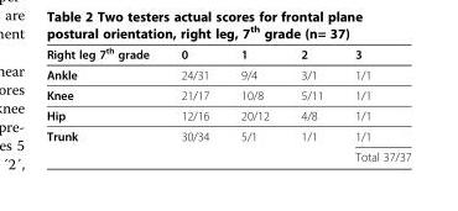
<table><thead><tr><td>Right leg 7<sup>th</sup> grade</td><td>0</td><td>1</td><td>2</td><td>3</td></tr></thead><tbody><tr><td>Ankle</td><td>24/31</td><td>9/4</td><td>3/1</td><td>1/1</td></tr><tr><td>Knee</td><td>21/17</td><td>10/8</td><td>5/11</td><td>1/1</td></tr><tr><td>Hip</td><td>12/16</td><td>20/12</td><td>4/8</td><td>1/1</td></tr><tr><td rowspan="2">Trunk</td><td>30/34</td><td>5/1</td><td>1/1</td><td>1/1</td></tr><tr><td></td><td></td><td></td><td>Total 37/37</td></tr></tbody></table>